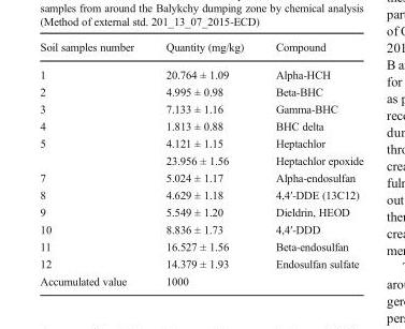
<table><thead><tr><td>Soil samples number</td><td>Quantity (mg/kg)</td><td>Compound</td></tr></thead><tbody><tr><td>1</td><td>20.764 ± 1.09</td><td>Alpha-HCH</td></tr><tr><td>2</td><td>4.995 ± 0.98</td><td>Beta-BHC</td></tr><tr><td>3</td><td>7.133 ± 1.16</td><td>Gamma-BHC</td></tr><tr><td>4</td><td>1.813 ± 0.88</td><td>BHC delta</td></tr><tr><td rowspan="2">5</td><td>4.121 ± 1.15</td><td>Heptachlor</td></tr><tr><td>23.956 ± 1.56</td><td>Heptachlor epoxide</td></tr><tr><td>7</td><td>5.024 ± 1.17</td><td>Alpha-endosulfan</td></tr><tr><td>8</td><td>4.629 ± 1.18</td><td>4,4′-DDE (13C12)</td></tr><tr><td>9</td><td>5.549 ± 1.20</td><td>Dieldrin, HEOD</td></tr><tr><td>10</td><td>8.836 ± 1.73</td><td>4,4′-DDD</td></tr><tr><td>11</td><td>16.527 ± 1.56</td><td>Beta-endosulfan</td></tr><tr><td>12</td><td>14.379 ± 1.93</td><td>Endosulfan sulfate</td></tr><tr><td>Accumulated value</td><td>1000</td><td></td></tr></tbody></table>